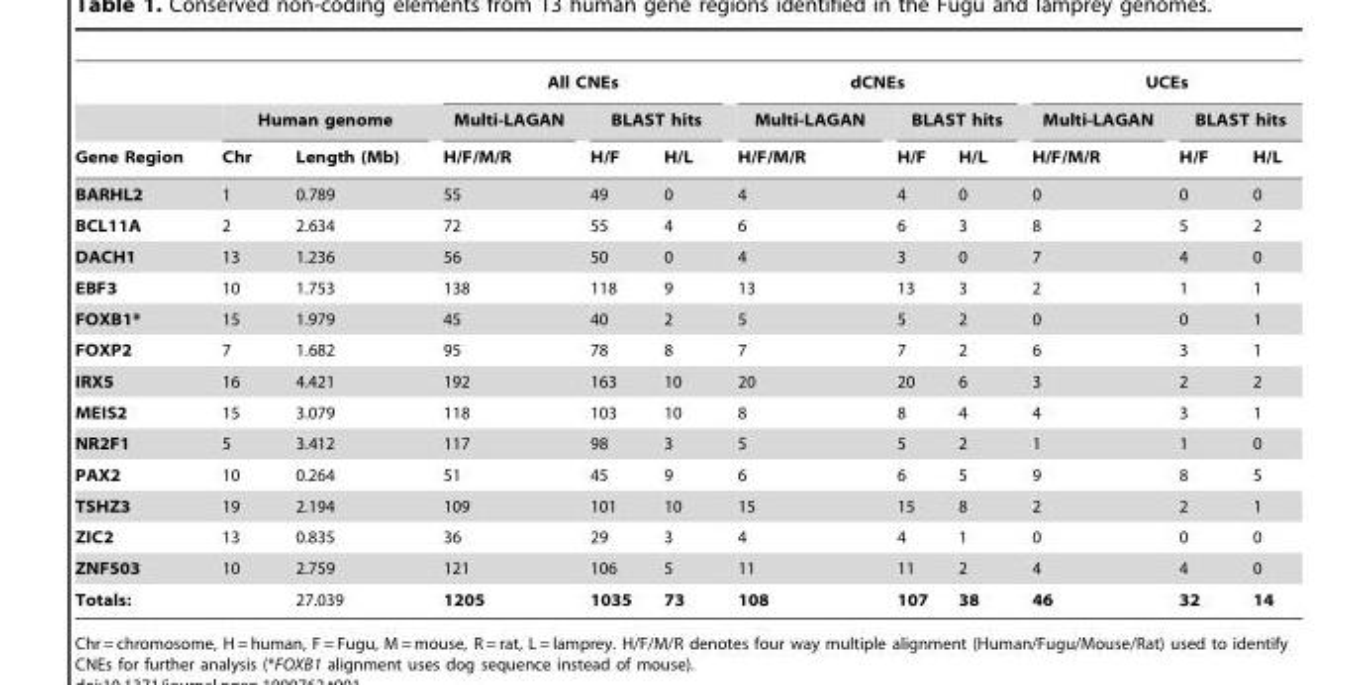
<table><thead><tr><td rowspan="3">Gene Region</td><td></td><td></td><td colspan="3">All CNEs</td><td colspan="3">dCNEs</td><td colspan="3">UCEs</td></tr><tr><td colspan="2">Human genome</td><td rowspan="2">Multi-LAGAN H/F/M/R</td><td colspan="2">BLAST hits</td><td rowspan="2">Multi-LAGAN H/F/M/R</td><td colspan="2">BLAST hits</td><td rowspan="2">Multi-LAGAN H/F/M/R</td><td colspan="2">BLAST hits</td></tr><tr><td>Chr</td><td>Length (Mb)</td><td>H/F</td><td>H/L</td><td>H/F</td><td>H/L</td><td>H/F</td><td>H/L</td></tr></thead><tbody><tr><td>BARHL2</td><td>1</td><td>0.789</td><td>55</td><td>49</td><td>0</td><td>4</td><td>4</td><td>0</td><td>0</td><td>0</td><td>0</td></tr><tr><td>BCL11A</td><td>2</td><td>2.634</td><td>72</td><td>55</td><td>4</td><td>6</td><td>6</td><td>3</td><td>8</td><td>5</td><td>2</td></tr><tr><td>DACH1</td><td>13</td><td>1.236</td><td>56</td><td>50</td><td>0</td><td>4</td><td>3</td><td>0</td><td>7</td><td>4</td><td>0</td></tr><tr><td>EBF3</td><td>10</td><td>1.753</td><td>138</td><td>118</td><td>9</td><td>13</td><td>13</td><td>3</td><td>2</td><td>1</td><td>1</td></tr><tr><td>FOXB1*</td><td>15</td><td>1.979</td><td>45</td><td>40</td><td>2</td><td>5</td><td>5</td><td>2</td><td>0</td><td>0</td><td>1</td></tr><tr><td>FOXP2</td><td>7</td><td>1.682</td><td>95</td><td>78</td><td>8</td><td>7</td><td>7</td><td>2</td><td>6</td><td>3</td><td>1</td></tr><tr><td>IRX5</td><td>16</td><td>4.421</td><td>192</td><td>163</td><td>10</td><td>20</td><td>20</td><td>6</td><td>3</td><td>2</td><td>2</td></tr><tr><td>MEIS2</td><td>15</td><td>3.079</td><td>118</td><td>103</td><td>10</td><td>8</td><td>8</td><td>4</td><td>4</td><td>3</td><td>1</td></tr><tr><td>NR2F1</td><td>5</td><td>3.412</td><td>117</td><td>98</td><td>3</td><td>5</td><td>5</td><td>2</td><td>1</td><td>1</td><td>0</td></tr><tr><td>PAX2</td><td>10</td><td>0.264</td><td>51</td><td>45</td><td>9</td><td>6</td><td>6</td><td>5</td><td>9</td><td>8</td><td>5</td></tr><tr><td>TSHZ3</td><td>19</td><td>2.194</td><td>109</td><td>101</td><td>10</td><td>15</td><td>15</td><td>8</td><td>2</td><td>2</td><td>1</td></tr><tr><td>ZIC2</td><td>13</td><td>0.835</td><td>36</td><td>29</td><td>3</td><td>4</td><td>4</td><td>1</td><td>0</td><td>0</td><td>0</td></tr><tr><td>ZNF503</td><td>10</td><td>2.759</td><td>121</td><td>106</td><td>5</td><td>11</td><td>11</td><td>2</td><td>4</td><td>4</td><td>0</td></tr><tr><td>Totals:</td><td></td><td>27.039</td><td>1205</td><td>1035</td><td>73</td><td>108</td><td>107</td><td>38</td><td>46</td><td>32</td><td>14</td></tr></tbody></table>